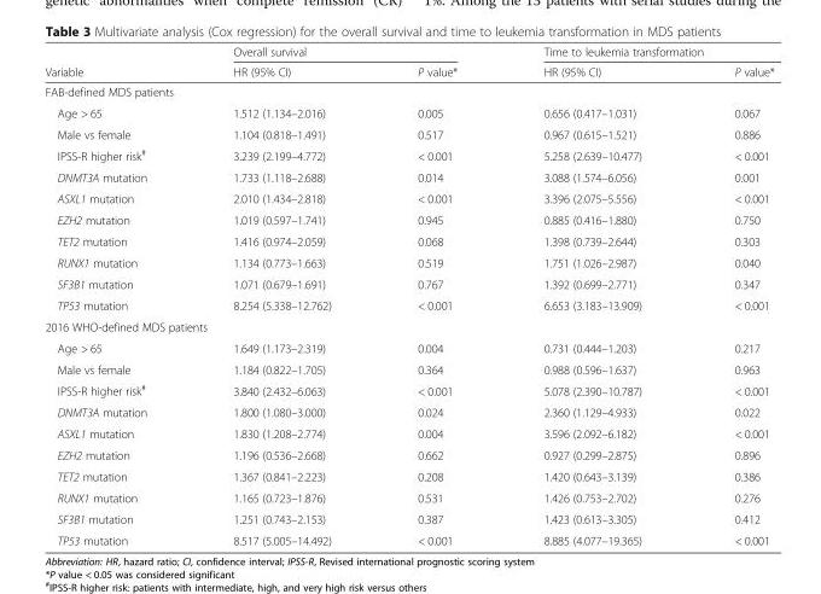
<table><thead><tr><td rowspan="2">Variable</td><td colspan="2">Overall survival</td><td colspan="2">Time to leukemia transformation</td></tr><tr><td>HR (95% CI)</td><td>P value*</td><td>HR (95% CI)</td><td>P value*</td></tr></thead><tbody><tr><td colspan="5">FAB-defined MDS patients</td></tr><tr><td>Age &gt; 65</td><td>1.512 (1.134–2.016)</td><td>0.005</td><td>0.656 (0.417–1.031)</td><td>0.067</td></tr><tr><td>Male vs female</td><td>1.104 (0.818–1.491)</td><td>0.517</td><td>0.967 (0.615–1.521)</td><td>0.886</td></tr><tr><td>IPSS-R higher risk<sup>#</sup></td><td>3.239 (2.199–4.772)</td><td>&lt; 0.001</td><td>5.258 (2.639–10.477)</td><td>&lt; 0.001</td></tr><tr><td>DNMT3A mutation</td><td>1.733 (1.118–2.688)</td><td>0.014</td><td>3.088 (1.574–6.056)</td><td>0.001</td></tr><tr><td>ASXL1 mutation</td><td>2.010 (1.434–2.818)</td><td>&lt; 0.001</td><td>3.396 (2.075–5.556)</td><td>&lt; 0.001</td></tr><tr><td>EZH2 mutation</td><td>1.019 (0.597–1.741)</td><td>0.945</td><td>0.885 (0.416–1.880)</td><td>0.750</td></tr><tr><td>TET2 mutation</td><td>1.416 (0.974–2.059)</td><td>0.068</td><td>1.398 (0.739–2.644)</td><td>0.303</td></tr><tr><td>RUNX1 mutation</td><td>1.134 (0.773–1.663)</td><td>0.519</td><td>1.751 (1.026–2.987)</td><td>0.040</td></tr><tr><td>SF3B1 mutation</td><td>1.071 (0.679–1.691)</td><td>0.767</td><td>1.392 (0.699–2.771)</td><td>0.347</td></tr><tr><td>TP53 mutation</td><td>8.254 (5.338–12.762)</td><td>&lt; 0.001</td><td>6.653 (3.183–13.909)</td><td>&lt; 0.001</td></tr><tr><td colspan="5">2016 WHO-defined MDS patients</td></tr><tr><td>Age &gt; 65</td><td>1.649 (1.173–2.319)</td><td>0.004</td><td>0.731 (0.444–1.203)</td><td>0.217</td></tr><tr><td>Male vs female</td><td>1.184 (0.822–1.705)</td><td>0.364</td><td>0.988 (0.596–1.637)</td><td>0.963</td></tr><tr><td>IPSS-R higher risk<sup>#</sup></td><td>3.840 (2.432–6.063)</td><td>&lt; 0.001</td><td>5.078 (2.390–10.787)</td><td>&lt; 0.001</td></tr><tr><td>DNMT3A mutation</td><td>1.800 (1.080–3.000)</td><td>0.024</td><td>2.360 (1.129–4.933)</td><td>0.022</td></tr><tr><td>ASXL1 mutation</td><td>1.830 (1.208–2.774)</td><td>0.004</td><td>3.596 (2.092–6.182)</td><td>&lt; 0.001</td></tr><tr><td>EZH2 mutation</td><td>1.196 (0.536–2.668)</td><td>0.662</td><td>0.927 (0.299–2.875)</td><td>0.896</td></tr><tr><td>TET2 mutation</td><td>1.367 (0.841–2.223)</td><td>0.208</td><td>1.420 (0.643–3.139)</td><td>0.386</td></tr><tr><td>RUNX1 mutation</td><td>1.165 (0.723–1.876)</td><td>0.531</td><td>1.426 (0.753–2.702)</td><td>0.276</td></tr><tr><td>SF3B1 mutation</td><td>1.251 (0.743–2.153)</td><td>0.387</td><td>1.423 (0.613–3.305)</td><td>0.412</td></tr><tr><td>TP53 mutation</td><td>8.517 (5.005–14.492)</td><td>&lt; 0.001</td><td>8.885 (4.077–19.365)</td><td>&lt; 0.001</td></tr></tbody></table>